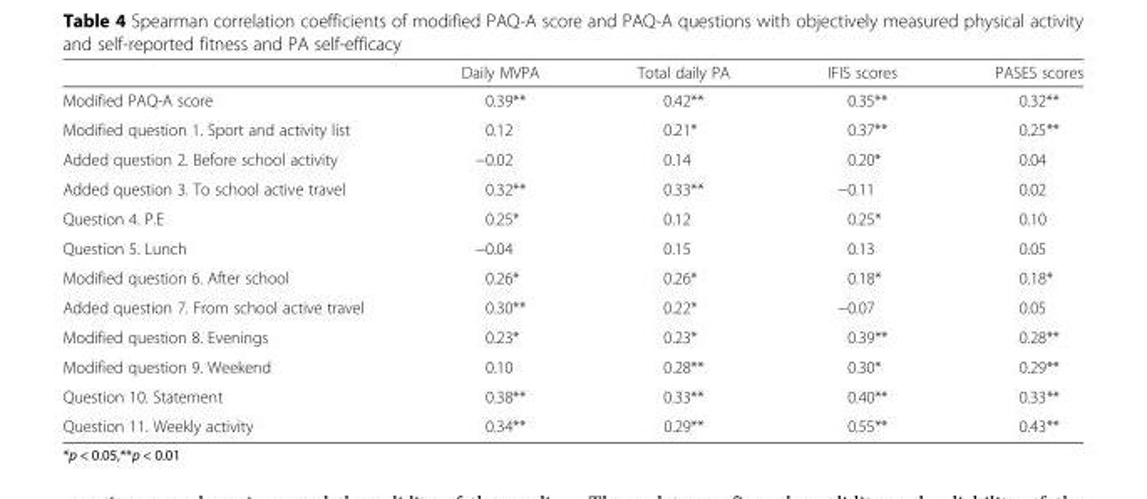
<table><thead><tr><td></td><td>Daily MVPA</td><td>Total daily PA</td><td>IFIS scores</td><td>PASES scores</td></tr></thead><tbody><tr><td>Modified PAQ-A score</td><td>0.39**</td><td>0.42**</td><td>0.35**</td><td>0.32**</td></tr><tr><td>Modified question 1. Sport and activity list</td><td>0.12</td><td>0.21*</td><td>0.37**</td><td>0.25**</td></tr><tr><td>Added question 2. Before school activity</td><td>−0.02</td><td>0.14</td><td>0.20*</td><td>0.04</td></tr><tr><td>Added question 3. To school active travel</td><td>0.32**</td><td>0.33**</td><td>−0.11</td><td>0.02</td></tr><tr><td>Question 4. P.E</td><td>0.25*</td><td>0.12</td><td>0.25*</td><td>0.10</td></tr><tr><td>Question 5. Lunch</td><td>−0.04</td><td>0.15</td><td>0.13</td><td>0.05</td></tr><tr><td>Modified question 6. After school</td><td>0.26*</td><td>0.26*</td><td>0.18*</td><td>0.18*</td></tr><tr><td>Added question 7. From school active travel</td><td>0.30**</td><td>0.22*</td><td>−0.07</td><td>0.05</td></tr><tr><td>Modified question 8. Evenings</td><td>0.23*</td><td>0.23*</td><td>0.39**</td><td>0.28**</td></tr><tr><td>Modified question 9. Weekend</td><td>0.10</td><td>0.28**</td><td>0.30*</td><td>0.29**</td></tr><tr><td>Question 10. Statement</td><td>0.38**</td><td>0.33**</td><td>0.40**</td><td>0.33**</td></tr><tr><td>Question 11. Weekly activity</td><td>0.34**</td><td>0.29**</td><td>0.55**</td><td>0.43**</td></tr></tbody></table>